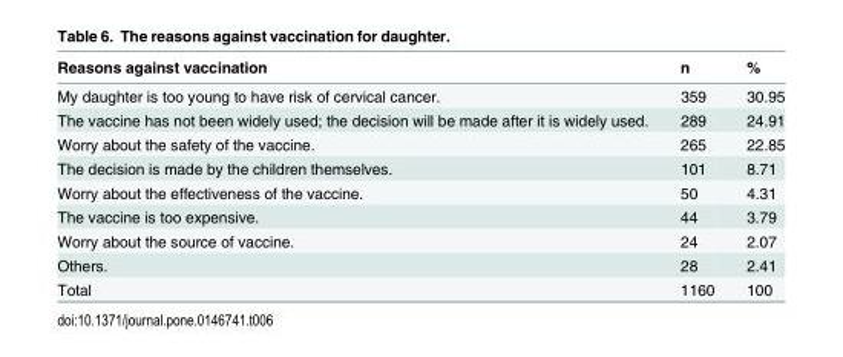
<table><thead><tr><td>Reasons against vaccination</td><td>n</td><td>%</td></tr></thead><tbody><tr><td>My daughter is too young to have risk of cervical cancer.</td><td>359</td><td>30.95</td></tr><tr><td>The vaccine has not been widely used; the decision will be made after it is widely used.</td><td>289</td><td>24.91</td></tr><tr><td>Worry about the safety of the vaccine.</td><td>265</td><td>22.85</td></tr><tr><td>The decision is made by the children themselves.</td><td>101</td><td>8.71</td></tr><tr><td>Worry about the effectiveness of the vaccine.</td><td>50</td><td>4.31</td></tr><tr><td>The vaccine is too expensive.</td><td>44</td><td>3.79</td></tr><tr><td>Worry about the source of vaccine.</td><td>24</td><td>2.07</td></tr><tr><td>Others.</td><td>28</td><td>2.41</td></tr><tr><td>Total</td><td>1160</td><td>100</td></tr></tbody></table>